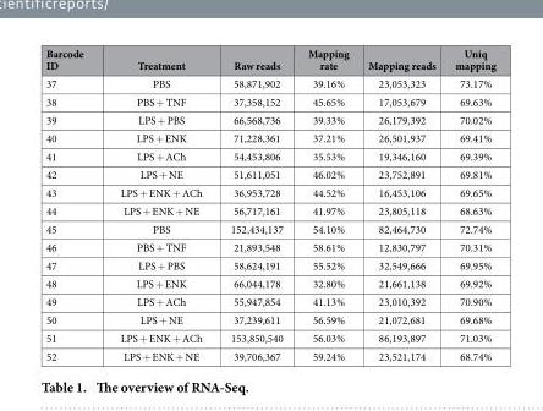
<table><thead><tr><td>Barcode ID</td><td>Treatment</td><td>Raw reads</td><td>Mapping rate</td><td>Mapping reads</td><td>Uniq mapping</td></tr></thead><tbody><tr><td>37</td><td>PBS</td><td>58,871,902</td><td>39.16%</td><td>23,053,323</td><td>73.17%</td></tr><tr><td>38</td><td>PBS + TNF</td><td>37,358,152</td><td>45.65%</td><td>17,053,679</td><td>69.63%</td></tr><tr><td>39</td><td>LPS + PBS</td><td>66,568,736</td><td>39.33%</td><td>26,179,392</td><td>70.02%</td></tr><tr><td>40</td><td>LPS + ENK</td><td>71,228,361</td><td>37.21%</td><td>26,501,937</td><td>69.41%</td></tr><tr><td>41</td><td>LPS + ACh</td><td>54,453,806</td><td>35.53%</td><td>19,346,160</td><td>69.39%</td></tr><tr><td>42</td><td>LPS + NE</td><td>51,611,051</td><td>46.02%</td><td>23,752,891</td><td>69.81%</td></tr><tr><td>43</td><td>LPS + ENK + ACh</td><td>36,953,728</td><td>44.52%</td><td>16,453,106</td><td>69.65%</td></tr><tr><td>44</td><td>LPS + ENK + NE</td><td>56,717,161</td><td>41.97%</td><td>23,805,118</td><td>68.63%</td></tr><tr><td>45</td><td>PBS</td><td>152,434,137</td><td>54.10%</td><td>82,464,730</td><td>72.74%</td></tr><tr><td>46</td><td>PBS + TNF</td><td>21,893,548</td><td>58.61%</td><td>12,830,797</td><td>70.31%</td></tr><tr><td>47</td><td>LPS + PBS</td><td>58,624,191</td><td>55.52%</td><td>32,549,666</td><td>69.95%</td></tr><tr><td>48</td><td>LPS + ENK</td><td>66,044,178</td><td>32.80%</td><td>21,661,138</td><td>69.92%</td></tr><tr><td>49</td><td>LPS + ACh</td><td>55,947,854</td><td>41.13%</td><td>23,010,392</td><td>70.90%</td></tr><tr><td>50</td><td>LPS + NE</td><td>37,239,611</td><td>56.59%</td><td>21,072,681</td><td>69.68%</td></tr><tr><td>51</td><td>LPS + ENK + ACh</td><td>153,850,540</td><td>56.03%</td><td>86,193,897</td><td>71.03%</td></tr><tr><td>52</td><td>LPS + ENK + NE</td><td>39,706,367</td><td>59.24%</td><td>23,521,174</td><td>68.74%</td></tr></tbody></table>